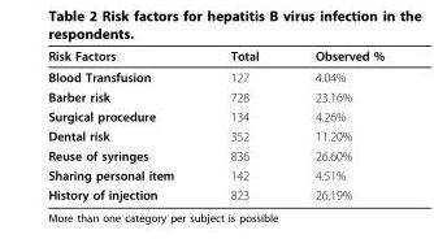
<table><thead><tr><td>Risk Factors</td><td>Total</td><td>Observed %</td></tr></thead><tbody><tr><td>Blood Transfusion</td><td>127</td><td>4.04%</td></tr><tr><td>Barber risk</td><td>728</td><td>23.16%</td></tr><tr><td>Surgical procedure</td><td>134</td><td>4.26%</td></tr><tr><td>Dental risk</td><td>352</td><td>11.20%</td></tr><tr><td>Reuse of syringes</td><td>836</td><td>26.60%</td></tr><tr><td>Sharing personal item</td><td>142</td><td>4.51%</td></tr><tr><td>History of injection</td><td>823</td><td>26.19%</td></tr></tbody></table>